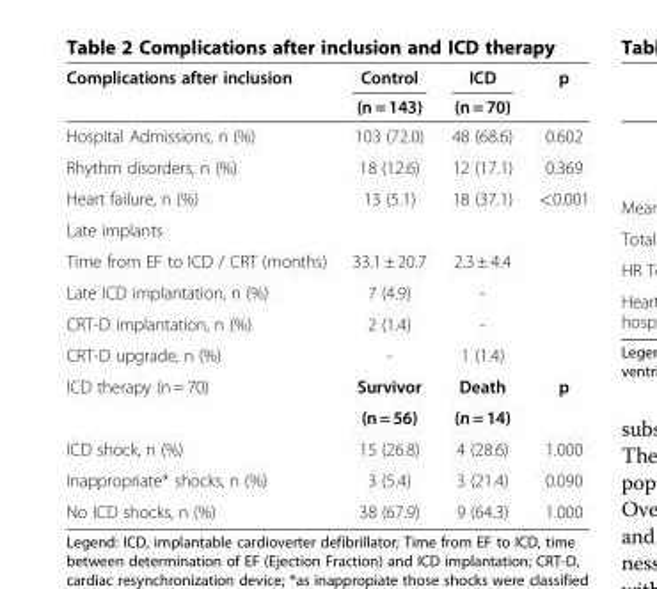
<table><thead><tr><td rowspan="2">Complications after inclusion</td><td rowspan="2">Control (n = 143)</td><td rowspan="2">ICD (n = 70)</td><td rowspan="2">p</td></tr><tr></tr></thead><tbody><tr><td>Hospital Admissions, n (%)</td><td>103 (72.0)</td><td>48 (68.6)</td><td>0.602</td></tr><tr><td>Rhythm disorders, n (%)</td><td>18 (12.6)</td><td>12 (17.1)</td><td>0.369</td></tr><tr><td>Heart failure, n (%)</td><td>13 (5.1)</td><td>18 (37.1)</td><td>&lt;0.001</td></tr><tr><td colspan="4">Late implants</td></tr><tr><td>Time from EF to ICD / CRT (months)</td><td>33.1 ± 20.7</td><td>2.3 ± 4.4</td><td></td></tr><tr><td>Late ICD implantation, n (%)</td><td>7 (4.9)</td><td>-</td><td></td></tr><tr><td>CRT-D implantation, n (%)</td><td>2 (1.4)</td><td>-</td><td></td></tr><tr><td>CRT-D upgrade, n (%)</td><td>-</td><td>1 (1.4)</td><td></td></tr><tr><td rowspan="2">ICD therapy (n = 70)</td><td>Survivor</td><td>Death</td><td rowspan="2">p</td></tr><tr><td>(n = 56)</td><td>(n = 14)</td></tr><tr><td>ICD shock, n (%)</td><td>15 (26.8)</td><td>4 (28.6)</td><td>1.000</td></tr><tr><td>Inappropriate* shocks, n (%)</td><td>3 (5.4)</td><td>3 (21.4)</td><td>0.090</td></tr><tr><td>No ICD shocks, n (%)</td><td>38 (67.9)</td><td>9 (64.3)</td><td>1.000</td></tr></tbody></table>